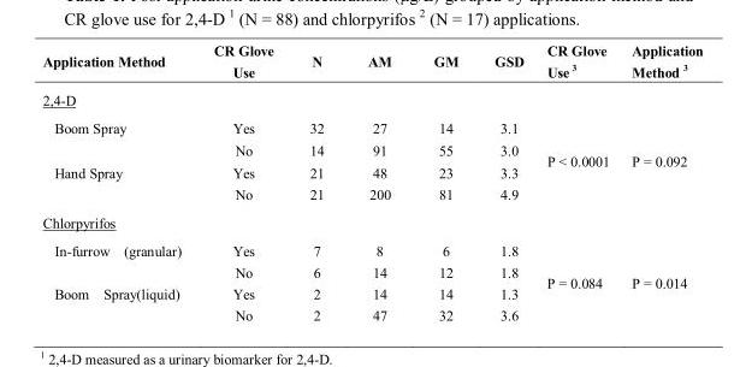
<table><thead><tr><td>Application Method</td><td>CR Glove Use</td><td>N</td><td>AM</td><td>GM</td><td>GSD</td><td>CR Glove Use <sup>3</sup></td><td>Application Method <sup>3</sup></td></tr></thead><tbody><tr><td colspan="8">2,4-D</td></tr><tr><td rowspan="2">Boom Spray</td><td>Yes</td><td>32</td><td>27</td><td>14</td><td>3.1</td><td rowspan="4">P &lt; 0.0001</td><td rowspan="4">P = 0.092</td></tr><tr><td>No</td><td>14</td><td>91</td><td>55</td><td>3.0</td></tr><tr><td rowspan="2">Hand Spray</td><td>Yes</td><td>21</td><td>48</td><td>23</td><td>3.3</td></tr><tr><td>No</td><td>21</td><td>200</td><td>81</td><td>4.9</td></tr><tr><td colspan="8">Chlorpyrifos</td></tr><tr><td rowspan="2">In-furrow (granular)</td><td>Yes</td><td>7</td><td>8</td><td>6</td><td>1.8</td><td rowspan="4">P = 0.084</td><td rowspan="4">P = 0.014</td></tr><tr><td>No</td><td>6</td><td>14</td><td>12</td><td>1.8</td></tr><tr><td rowspan="2">Boom Spray(liquid)</td><td>Yes</td><td>2</td><td>14</td><td>14</td><td>1.3</td></tr><tr><td>No</td><td>2</td><td>47</td><td>32</td><td>3.6</td></tr></tbody></table>